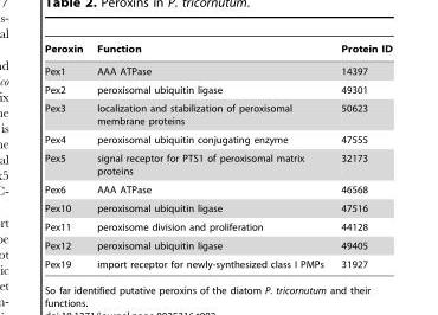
<table><thead><tr><td>Peroxin</td><td>Function</td><td>Protein ID</td></tr></thead><tbody><tr><td>Pex1</td><td>AAA ATPase</td><td>14397</td></tr><tr><td>Pex2</td><td>peroxisomal ubiquitin ligase</td><td>49301</td></tr><tr><td>Pex3</td><td>localization and stabilization of peroxisomal membrane proteins</td><td>50623</td></tr><tr><td>Pex4</td><td>peroxisomal ubiquitin conjugating enzyme</td><td>47555</td></tr><tr><td>Pex5</td><td>signal receptor for PTS1 of peroxisomal matrix proteins</td><td>32173</td></tr><tr><td>Pex6</td><td>AAA ATPase</td><td>46568</td></tr><tr><td>Pex10</td><td>peroxisomal ubiquitin ligase</td><td>47516</td></tr><tr><td>Pex11</td><td>peroxisome division and proliferation</td><td>44128</td></tr><tr><td>Pex12</td><td>peroxisomal ubiquitin ligase</td><td>49405</td></tr><tr><td>Pex19</td><td>import receptor for newly-synthesized class I PMPs</td><td>31927</td></tr></tbody></table>